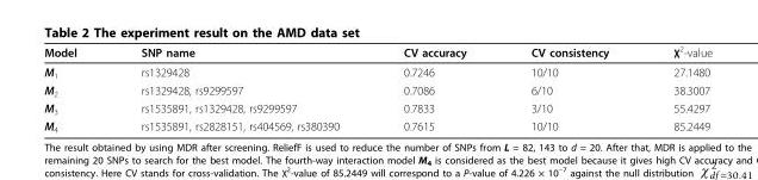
<table><thead><tr><td>Model</td><td>SNP name</td><td>CV accuracy</td><td>CV consistency</td><td>χ<sup>2</sup>-value</td></tr></thead><tbody><tr><td>M<sub>1</sub></td><td>rs1329428</td><td>0.7246</td><td>10/10</td><td>27.1480</td></tr><tr><td>M<sub>2</sub></td><td>rs1329428, rs9299597</td><td>0.7086</td><td>6/10</td><td>38.3007</td></tr><tr><td>M<sub>3</sub></td><td>rs1535891, rs1329428, rs9299597</td><td>0.7833</td><td>3/10</td><td>55.4297</td></tr><tr><td>M<sub>4</sub></td><td>rs1535891, rs2828151, rs404569, rs380390</td><td>0.7615</td><td>10/10</td><td>85.2449</td></tr></tbody></table>